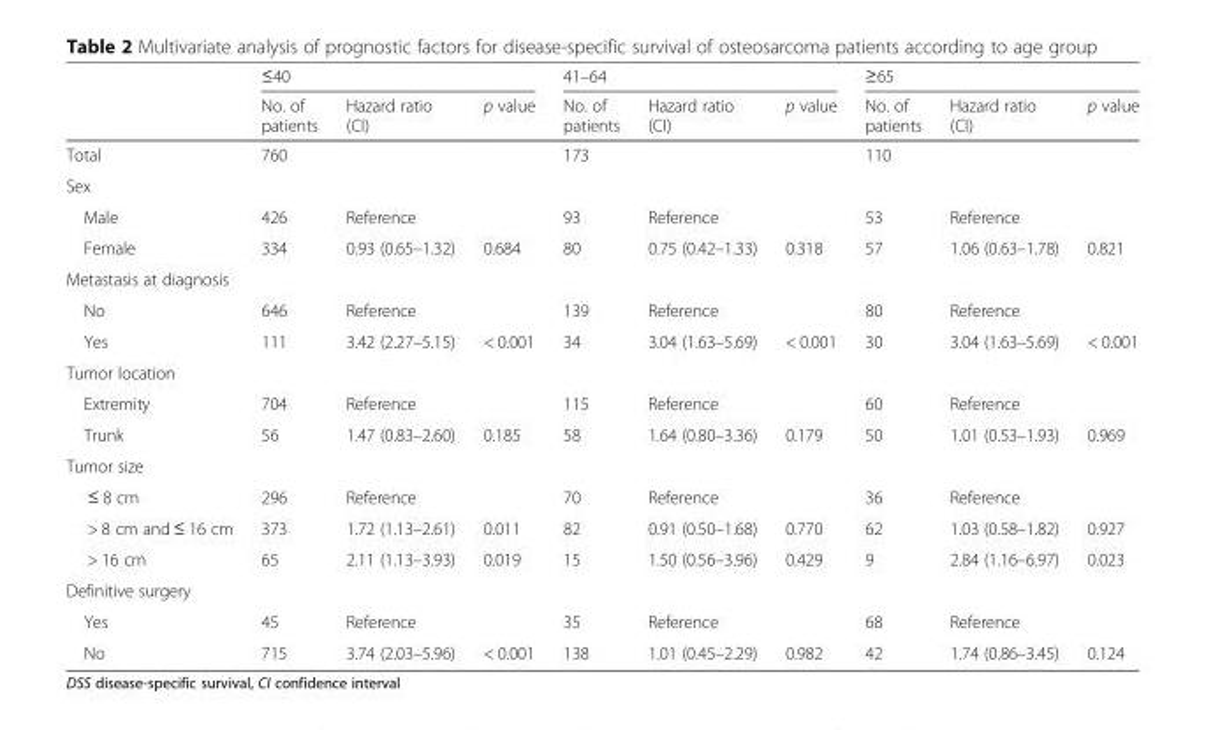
<table><thead><tr><td rowspan="2"></td><td colspan="3">≤40</td><td colspan="3">41–64</td><td colspan="3">≥65</td></tr><tr><td>No. of patients</td><td>Hazard ratio (CI)</td><td>p value</td><td>No. of patients</td><td>Hazard ratio (CI)</td><td>p value</td><td>No. of patients</td><td>Hazard ratio (CI)</td><td>p value</td></tr></thead><tbody><tr><td>Total</td><td>760</td><td></td><td></td><td>173</td><td></td><td></td><td>110</td><td></td><td></td></tr><tr><td colspan="10">Sex</td></tr><tr><td>Male</td><td>426</td><td>Reference</td><td></td><td>93</td><td>Reference</td><td></td><td>53</td><td>Reference</td><td></td></tr><tr><td>Female</td><td>334</td><td>0.93 (0.65–1.32)</td><td>0.684</td><td>80</td><td>0.75 (0.42–1.33)</td><td>0.318</td><td>57</td><td>1.06 (0.63–1.78)</td><td>0.821</td></tr><tr><td colspan="10">Metastasis at diagnosis</td></tr><tr><td>No</td><td>646</td><td>Reference</td><td></td><td>139</td><td>Reference</td><td></td><td>80</td><td>Reference</td><td></td></tr><tr><td>Yes</td><td>111</td><td>3.42 (2.27–5.15)</td><td>&lt; 0.001</td><td>34</td><td>3.04 (1.63–5.69)</td><td>&lt; 0.001</td><td>30</td><td>3.04 (1.63–5.69)</td><td>&lt; 0.001</td></tr><tr><td colspan="10">Tumor location</td></tr><tr><td>Extremity</td><td>704</td><td>Reference</td><td></td><td>115</td><td>Reference</td><td></td><td>60</td><td>Reference</td><td></td></tr><tr><td>Trunk</td><td>56</td><td>1.47 (0.83–2.60)</td><td>0.185</td><td>58</td><td>1.64 (0.80–3.36)</td><td>0.179</td><td>50</td><td>1.01 (0.53–1.93)</td><td>0.969</td></tr><tr><td colspan="10">Tumor size</td></tr><tr><td>≤ 8 cm</td><td>296</td><td>Reference</td><td></td><td>70</td><td>Reference</td><td></td><td>36</td><td>Reference</td><td></td></tr><tr><td>&gt; 8 cm and ≤ 16 cm</td><td>373</td><td>1.72 (1.13–2.61)</td><td>0.011</td><td>82</td><td>0.91 (0.50–1.68)</td><td>0.770</td><td>62</td><td>1.03 (0.58–1.82)</td><td>0.927</td></tr><tr><td>&gt; 16 cm</td><td>65</td><td>2.11 (1.13–3.93)</td><td>0.019</td><td>15</td><td>1.50 (0.56–3.96)</td><td>0.429</td><td>9</td><td>2.84 (1.16–6.97)</td><td>0.023</td></tr><tr><td colspan="10">Definitive surgery</td></tr><tr><td>Yes</td><td>45</td><td>Reference</td><td></td><td>35</td><td>Reference</td><td></td><td>68</td><td>Reference</td><td></td></tr><tr><td>No</td><td>715</td><td>3.74 (2.03–5.96)</td><td>&lt; 0.001</td><td>138</td><td>1.01 (0.45–2.29)</td><td>0.982</td><td>42</td><td>1.74 (0.86–3.45)</td><td>0.124</td></tr></tbody></table>